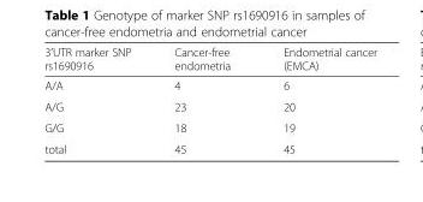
<table><thead><tr><td>3’UTR marker SNP rs1690916</td><td>Cancer-free endometria</td><td>Endometrial cancer (EMCA)</td></tr></thead><tbody><tr><td>A/A</td><td>4</td><td>6</td></tr><tr><td>A/G</td><td>23</td><td>20</td></tr><tr><td>G/G</td><td>18</td><td>19</td></tr><tr><td>total</td><td>45</td><td>45</td></tr></tbody></table>